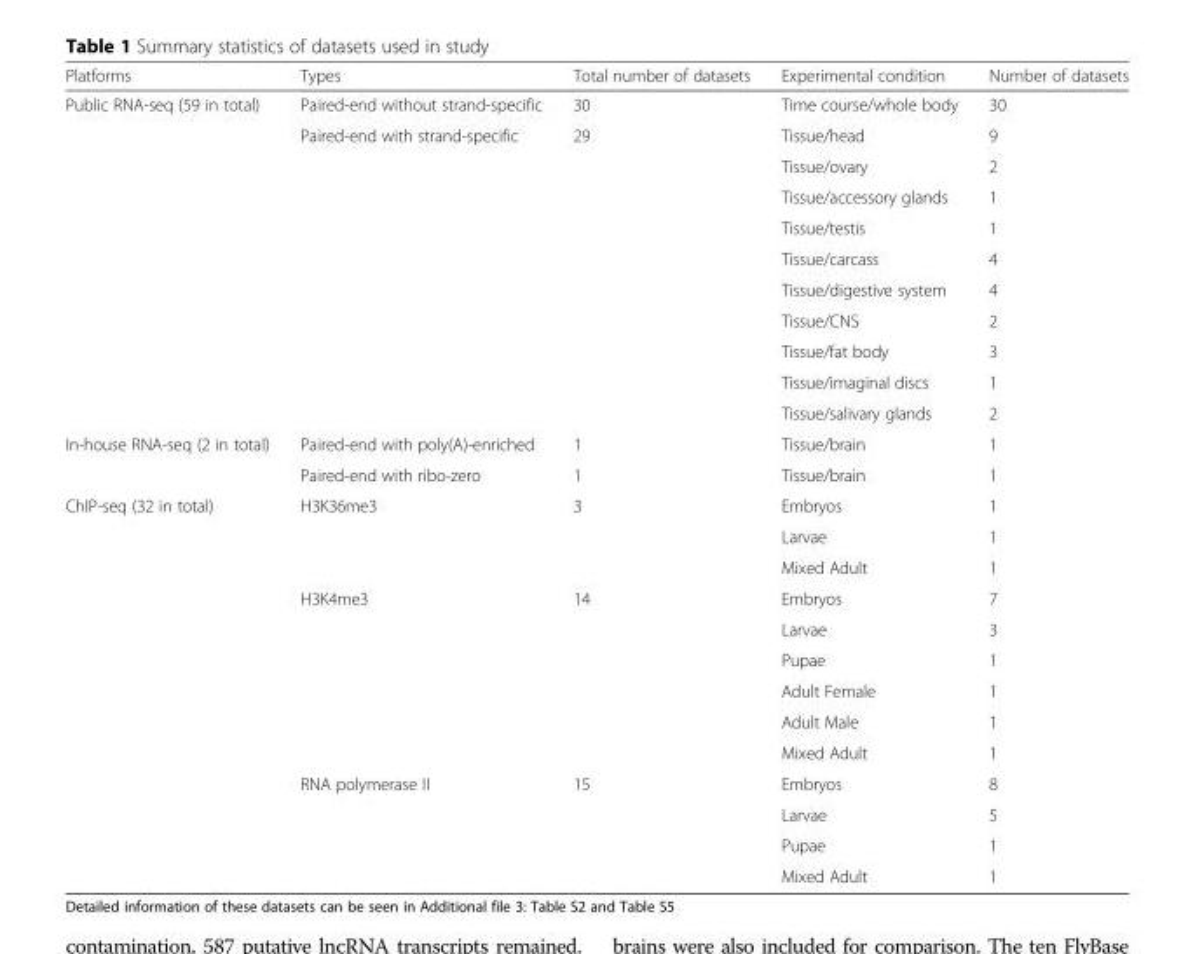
<table><thead><tr><td>Platforms</td><td>Types</td><td>Total number of datasets</td><td>Experimental condition</td><td>Number of datasets</td></tr></thead><tbody><tr><td rowspan="11">Public RNA-seq (59 in total)</td><td>Paired-end without strand-specific</td><td>30</td><td>Time course/whole body</td><td>30</td></tr><tr><td rowspan="10">Paired-end with strand-specific</td><td rowspan="10">29</td><td>Tissue/head</td><td>9</td></tr><tr><td>Tissue/ovary</td><td>2</td></tr><tr><td>Tissue/accessory glands</td><td>1</td></tr><tr><td>Tissue/testis</td><td>1</td></tr><tr><td>Tissue/carcass</td><td>4</td></tr><tr><td>Tissue/digestive system</td><td>4</td></tr><tr><td>Tissue/CNS</td><td>2</td></tr><tr><td>Tissue/fat body</td><td>3</td></tr><tr><td>Tissue/imaginal discs</td><td>1</td></tr><tr><td>Tissue/salivary glands</td><td>2</td></tr><tr><td rowspan="2">In-house RNA-seq (2 in total)</td><td>Paired-end with poly(A)-enriched</td><td>1</td><td>Tissue/brain</td><td>1</td></tr><tr><td>Paired-end with ribo-zero</td><td>1</td><td>Tissue/brain</td><td>1</td></tr><tr><td rowspan="13">ChIP-seq (32 in total)</td><td rowspan="3">H3K36me3</td><td rowspan="3">3</td><td>Embryos</td><td>1</td></tr><tr><td>Larvae</td><td>1</td></tr><tr><td>Mixed Adult</td><td>1</td></tr><tr><td rowspan="6">H3K4me3</td><td rowspan="6">14</td><td>Embryos</td><td>7</td></tr><tr><td>Larvae</td><td>3</td></tr><tr><td>Pupae</td><td>1</td></tr><tr><td>Adult Female</td><td>1</td></tr><tr><td>Adult Male</td><td>1</td></tr><tr><td>Mixed Adult</td><td>1</td></tr><tr><td rowspan="4">RNA polymerase II</td><td rowspan="4">15</td><td>Embryos</td><td>8</td></tr><tr><td>Larvae</td><td>5</td></tr><tr><td>Pupae</td><td>1</td></tr><tr><td>Mixed Adult</td><td>1</td></tr></tbody></table>